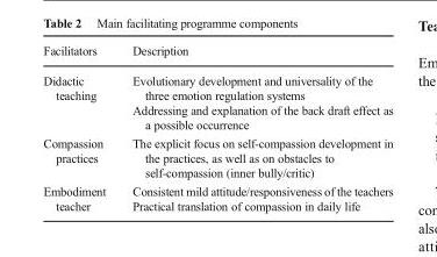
<table><thead><tr><td>Facilitators</td><td>Description</td></tr></thead><tbody><tr><td>Didactic teaching</td><td>Evolutionary development and universality of the three emotion regulation systems Addressing and explanation of the back draft effect as a possible occurrence</td></tr><tr><td>Compassion practices</td><td>The explicit focus on self-compassion development in the practices, as well as on obstacles to self-compassion (inner bully/critic)</td></tr><tr><td>Embodiment teacher</td><td>Consistent mild attitude/responsiveness of the teachers Practical translation of compassion in daily life</td></tr></tbody></table>